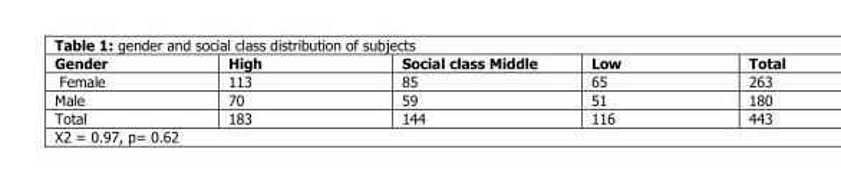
<table><thead><tr><td>Gender</td><td>High</td><td>Social class Middle</td><td>Low</td><td>Total</td></tr></thead><tbody><tr><td>Female</td><td>113</td><td>85</td><td>65</td><td>263</td></tr><tr><td>Male</td><td>70</td><td>59</td><td>51</td><td>180</td></tr><tr><td>Total</td><td>183</td><td>144</td><td>116</td><td>443</td></tr></tbody></table>